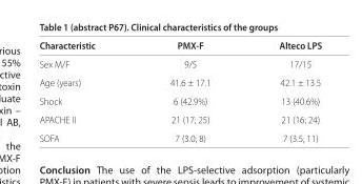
<table><thead><tr><td>Characteristic</td><td>PMX-F</td><td>Alteco LPS</td></tr></thead><tbody><tr><td>Sex M/F</td><td>9/5</td><td>17/15</td></tr><tr><td>Age (years)</td><td>41.6 ± 17.1</td><td>42.1 ± 13.5</td></tr><tr><td>Shock</td><td>6 (42.9%)</td><td>13 (40.6%)</td></tr><tr><td>APACHE II</td><td>21 (17; 25)</td><td>21 (16; 24)</td></tr><tr><td>SOFA</td><td>7 (3.0; 8)</td><td>7 (3.5; 11)</td></tr></tbody></table>